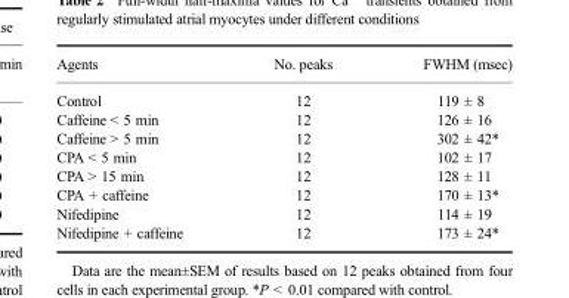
<table><thead><tr><td>Agents</td><td>No. peaks</td><td>FWHM (msec)</td></tr></thead><tbody><tr><td>Control</td><td>12</td><td>119 ± 8</td></tr><tr><td>Caffeine &lt; 5 min</td><td>12</td><td>126 ± 16</td></tr><tr><td>Caffeine &gt; 5 min</td><td>12</td><td>302 ± 42*</td></tr><tr><td>CPA &lt; 5 min</td><td>12</td><td>102 ± 17</td></tr><tr><td>CPA &gt; 15 min</td><td>12</td><td>128 ± 11</td></tr><tr><td>CPA + caffeine</td><td>12</td><td>170 ± 13*</td></tr><tr><td>Nifedipine</td><td>12</td><td>114 ± 19</td></tr><tr><td>Nifedipine + caffeine</td><td>12</td><td>173 ± 24*</td></tr></tbody></table>